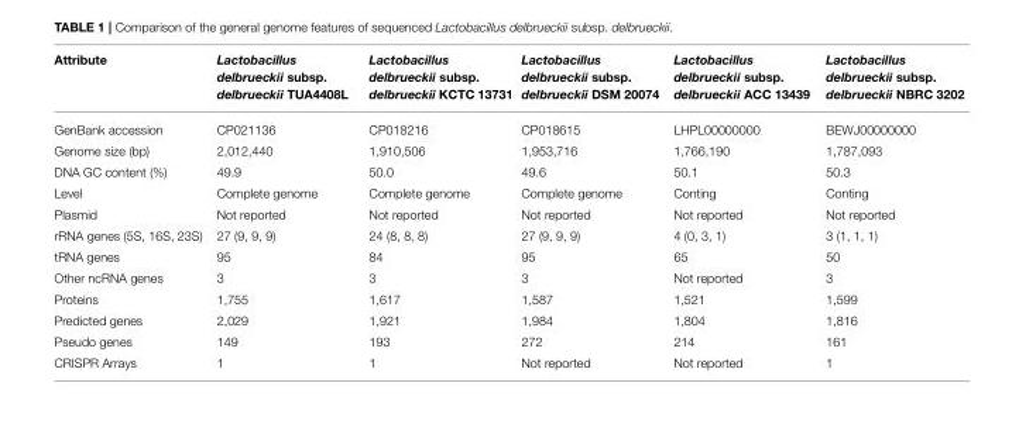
<table><thead><tr><td>Attribute</td><td>Lactobacillus delbrueckii subsp. delbrueckii TUA4408L</td><td>Lactobacillus delbrueckii subsp. delbrueckii KCTC 13731</td><td>Lactobacillus delbrueckii subsp. delbrueckii DSM 20074</td><td>Lactobacillus delbrueckii subsp. delbrueckii ACC 13439</td><td>Lactobacillus delbrueckii subsp. delbrueckii NBRC 3202</td></tr></thead><tbody><tr><td>GenBank accession</td><td>CP021136</td><td>CP018216</td><td>CP018615</td><td>LHPL00000000</td><td>BEWJ00000000</td></tr><tr><td>Genome size (bp)</td><td>2,012,440</td><td>1,910,506</td><td>1,953,716</td><td>1,766,190</td><td>1,787,093</td></tr><tr><td>DNA GC content (%)</td><td>49.9</td><td>50.0</td><td>49.6</td><td>50.1</td><td>50.3</td></tr><tr><td>Level</td><td>Complete genome</td><td>Complete genome</td><td>Complete genome</td><td>Conting</td><td>Conting</td></tr><tr><td>Plasmid</td><td>Not reported</td><td>Not reported</td><td>Not reported</td><td>Not reported</td><td>Not reported</td></tr><tr><td>rRNA genes (5S, 16S, 23S)</td><td>27 (9, 9, 9)</td><td>24 (8, 8, 8)</td><td>27 (9, 9, 9)</td><td>4 (0, 3, 1)</td><td>3 (1, 1, 1)</td></tr><tr><td>tRNA genes</td><td>95</td><td>84</td><td>95</td><td>65</td><td>50</td></tr><tr><td>Other ncRNA genes</td><td>3</td><td>3</td><td>3</td><td>Not reported</td><td>3</td></tr><tr><td>Proteins</td><td>1,755</td><td>1,617</td><td>1,587</td><td>1,521</td><td>1,599</td></tr><tr><td>Predicted genes</td><td>2,029</td><td>1,921</td><td>1,984</td><td>1,804</td><td>1,816</td></tr><tr><td>Pseudo genes</td><td>149</td><td>193</td><td>272</td><td>214</td><td>161</td></tr><tr><td>CRISPR Arrays</td><td>1</td><td>1</td><td>Not reported</td><td>Not reported</td><td>1</td></tr></tbody></table>